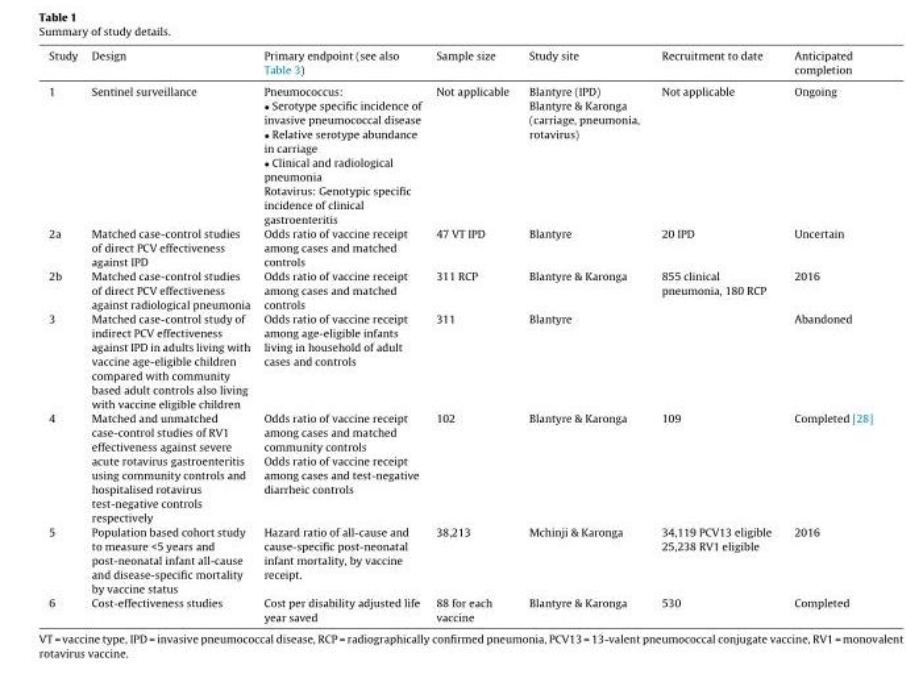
<table><thead><tr><td>Study</td><td>Design</td><td>Primary endpoint (see also Table 3)</td><td>Sample size</td><td>Study site</td><td>Recruitment to date</td><td>Anticipated completion</td></tr></thead><tbody><tr><td>1</td><td>Sentinel surveillance</td><td>Pneumococcus: • Serotype specific incidence of invasive pneumococcal disease • Relative serotype abundance in carriage • Clinical and radiological pneumonia Rotavirus: Genotypic specific incidence of clinical gastroenteritis</td><td>Not applicable</td><td>Blantyre (IPD) Blantyre &amp; Karonga (carriage, pneumonia, rotavirus)</td><td>Not applicable</td><td>Ongoing</td></tr><tr><td>2a</td><td>Matched case-control studies of direct PCV effectiveness against IPD</td><td>Odds ratio of vaccine receipt among cases and matched controls</td><td>47 VT IPD</td><td>Blantyre</td><td>20 IPD</td><td>Uncertain</td></tr><tr><td>2b</td><td>Matched case-control studies of direct PCV effectiveness against radiological pneumonia</td><td>Odds ratio of vaccine receipt among cases and matched controls</td><td>311 RCP</td><td>Blantyre &amp; Karonga</td><td>855 clinical pneumonia, 180 RCP</td><td>2016</td></tr><tr><td>3</td><td>Matched case-control study of indirect PCV effectiveness against IPD in adults living with vaccine age-eligible children compared with community based adult controls also living with vaccine eligible children</td><td>Odds ratio of vaccine receipt among age-eligible infants living in household of adult cases and controls</td><td>311</td><td>Blantyre</td><td></td><td>Abandoned</td></tr><tr><td>4</td><td>Matched and unmatched case-control studies of RV1 effectiveness against severe acute rotavirus gastroenteritis using community controls and hospitalised rotavirus test-negative controls respectively</td><td>Odds ratio of vaccine receipt among cases and matched community controls Odds ratio of vaccine receipt among cases and test-negative diarrheic controls</td><td>102</td><td>Blantyre &amp; Karonga</td><td>109</td><td>Completed [28]</td></tr><tr><td>5</td><td>Population based cohort study to measure &lt;5 years and post-neonatal infant all-cause and disease-specific mortality by vaccine status</td><td>Hazard ratio of all-cause and cause-specific post-neonatal infant mortality, by vaccine receipt.</td><td>38,213</td><td>Mchinji &amp; Karonga</td><td>34,119 PCV13 eligible 25,238 RV1 eligible</td><td>2016</td></tr><tr><td>6</td><td>Cost-effectiveness studies</td><td>Cost per disability adjusted life year saved</td><td>88 for each vaccine</td><td>Blantyre &amp; Karonga</td><td>530</td><td>Completed</td></tr></tbody></table>